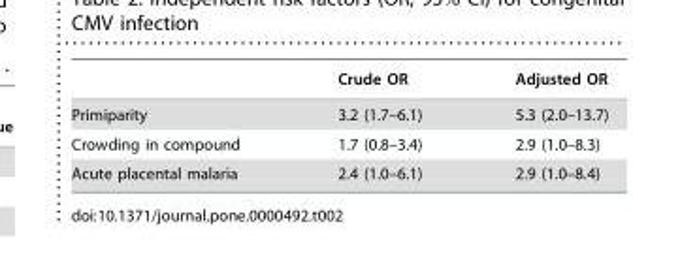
<table><thead><tr><td></td><td>Crude OR</td><td>Adjusted OR</td></tr></thead><tbody><tr><td>Primiparity</td><td>3.2 (1.7–6.1)</td><td>5.3 (2.0–13.7)</td></tr><tr><td>Crowding in compound</td><td>1.7 (0.8–3.4)</td><td>2.9 (1.0–8.3)</td></tr><tr><td>Acute placental malaria</td><td>2.4 (1.0–6.1)</td><td>2.9 (1.0–8.4)</td></tr></tbody></table>